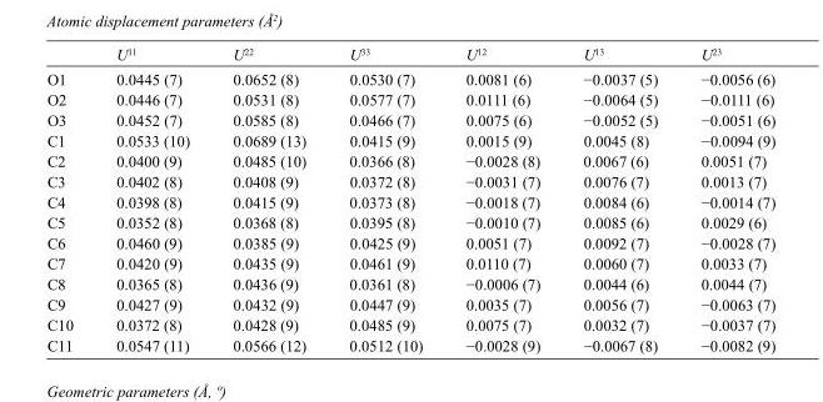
<table><thead><tr><td></td><td>U<sup>11</sup></td><td>U<sup>22</sup></td><td>U<sup>33</sup></td><td>U<sup>12</sup></td><td>U<sup>13</sup></td><td>U<sup>23</sup></td></tr></thead><tbody><tr><td>O1</td><td>0.0445 (7)</td><td>0.0652 (8)</td><td>0.0530 (7)</td><td>0.0081 (6)</td><td>−0.0037 (5)</td><td>−0.0056 (6)</td></tr><tr><td>O2</td><td>0.0446 (7)</td><td>0.0531 (8)</td><td>0.0577 (7)</td><td>0.0111 (6)</td><td>−0.0064 (5)</td><td>−0.0111 (6)</td></tr><tr><td>O3</td><td>0.0452 (7)</td><td>0.0585 (8)</td><td>0.0466 (7)</td><td>0.0075 (6)</td><td>−0.0052 (5)</td><td>−0.0051 (6)</td></tr><tr><td>C1</td><td>0.0533 (10)</td><td>0.0689 (13)</td><td>0.0415 (9)</td><td>0.0015 (9)</td><td>0.0045 (8)</td><td>−0.0094 (9)</td></tr><tr><td>C2</td><td>0.0400 (9)</td><td>0.0485 (10)</td><td>0.0366 (8)</td><td>−0.0028 (8)</td><td>0.0067 (6)</td><td>0.0051 (7)</td></tr><tr><td>C3</td><td>0.0402 (8)</td><td>0.0408 (9)</td><td>0.0372 (8)</td><td>−0.0031 (7)</td><td>0.0076 (7)</td><td>0.0013 (7)</td></tr><tr><td>C4</td><td>0.0398 (8)</td><td>0.0415 (9)</td><td>0.0373 (8)</td><td>−0.0018 (7)</td><td>0.0084 (6)</td><td>−0.0014 (7)</td></tr><tr><td>C5</td><td>0.0352 (8)</td><td>0.0368 (8)</td><td>0.0395 (8)</td><td>−0.0010 (7)</td><td>0.0085 (6)</td><td>0.0029 (6)</td></tr><tr><td>C6</td><td>0.0460 (9)</td><td>0.0385 (9)</td><td>0.0425 (9)</td><td>0.0051 (7)</td><td>0.0092 (7)</td><td>−0.0028 (7)</td></tr><tr><td>C7</td><td>0.0420 (9)</td><td>0.0435 (9)</td><td>0.0461 (9)</td><td>0.0110 (7)</td><td>0.0060 (7)</td><td>0.0033 (7)</td></tr><tr><td>C8</td><td>0.0365 (8)</td><td>0.0436 (9)</td><td>0.0361 (8)</td><td>−0.0006 (7)</td><td>0.0044 (6)</td><td>0.0044 (7)</td></tr><tr><td>C9</td><td>0.0427 (9)</td><td>0.0432 (9)</td><td>0.0447 (9)</td><td>0.0035 (7)</td><td>0.0056 (7)</td><td>−0.0063 (7)</td></tr><tr><td>C10</td><td>0.0372 (8)</td><td>0.0428 (9)</td><td>0.0485 (9)</td><td>0.0075 (7)</td><td>0.0032 (7)</td><td>−0.0037 (7)</td></tr><tr><td>C11</td><td>0.0547 (11)</td><td>0.0566 (12)</td><td>0.0512 (10)</td><td>−0.0028 (9)</td><td>−0.0067 (8)</td><td>−0.0082 (9)</td></tr></tbody></table>